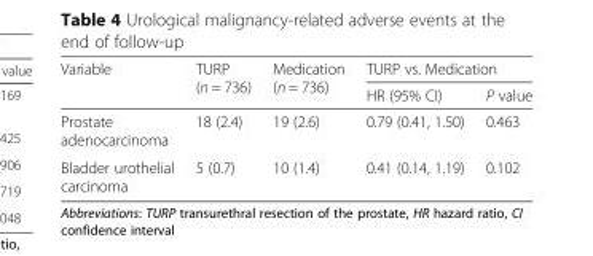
<table><thead><tr><td rowspan="2">Variable</td><td rowspan="2">TURP (n = 736)</td><td rowspan="2">Medication (n = 736)</td><td colspan="2">TURP vs. Medication</td></tr><tr><td>HR (95% CI)</td><td>P value</td></tr></thead><tbody><tr><td>Prostate adenocarcinoma</td><td>18 (2.4)</td><td>19 (2.6)</td><td>0.79 (0.41, 1.50)</td><td>0.463</td></tr><tr><td>Bladder urothelial carcinoma</td><td>5 (0.7)</td><td>10 (1.4)</td><td>0.41 (0.14, 1.19)</td><td>0.102</td></tr></tbody></table>